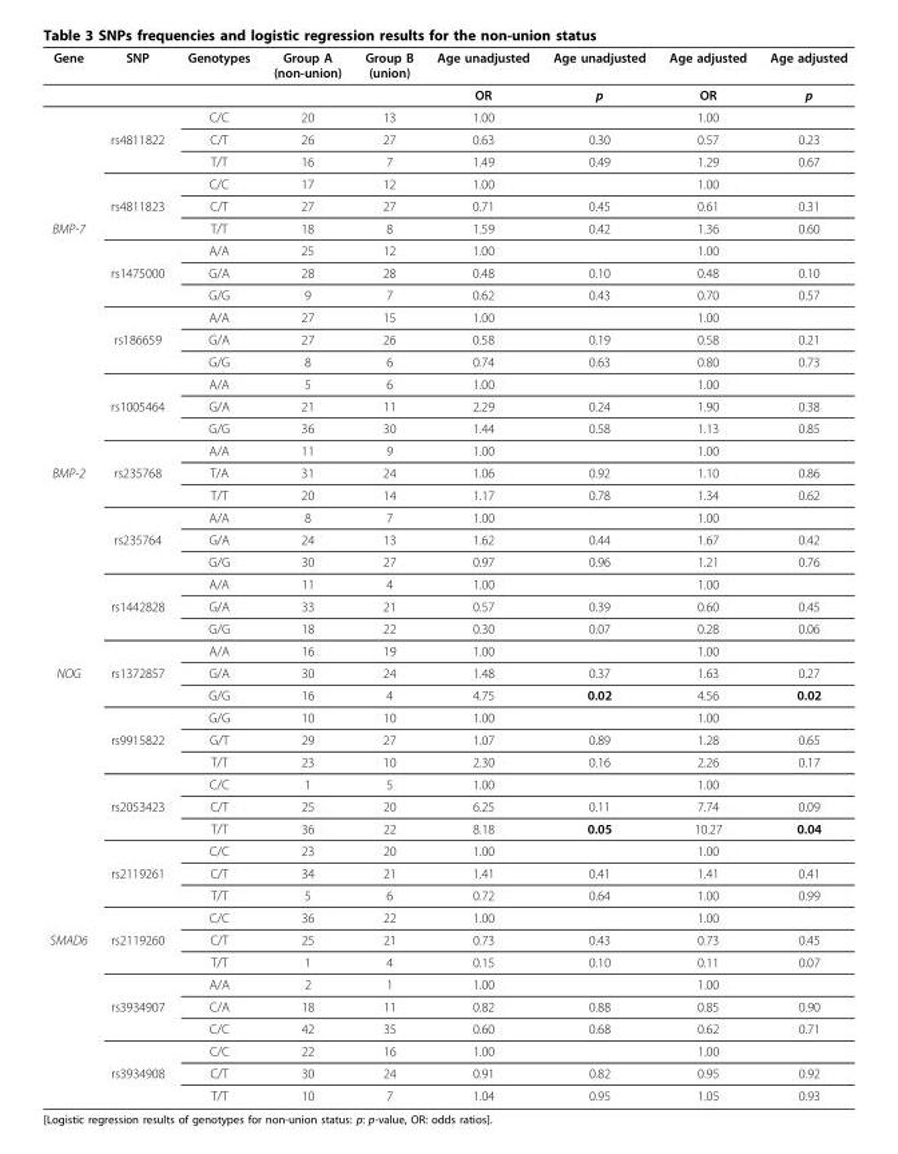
<table><thead><tr><td>Gene</td><td>SNP</td><td>Genotypes</td><td>Group A (non-union)</td><td>Group B (union)</td><td>Age unadjusted</td><td>Age unadjusted</td><td>Age adjusted</td><td>Age adjusted</td></tr></thead><tbody><tr><td></td><td></td><td></td><td></td><td></td><td>OR</td><td>p</td><td>OR</td><td>p</td></tr><tr><td></td><td></td><td>C/C</td><td>20</td><td>13</td><td>1.00</td><td></td><td>1.00</td><td></td></tr><tr><td></td><td>rs4811822</td><td>C/T</td><td>26</td><td>27</td><td>0.63</td><td>0.30</td><td>0.57</td><td>0.23</td></tr><tr><td></td><td></td><td>T/T</td><td>16</td><td>7</td><td>1.49</td><td>0.49</td><td>1.29</td><td>0.67</td></tr><tr><td></td><td></td><td>C/C</td><td>17</td><td>12</td><td>1.00</td><td></td><td>1.00</td><td></td></tr><tr><td></td><td>rs4811823</td><td>C/T</td><td>27</td><td>27</td><td>0.71</td><td>0.45</td><td>0.61</td><td>0.31</td></tr><tr><td rowspan="11">BMP-7</td><td></td><td>T/T</td><td>18</td><td>8</td><td>1.59</td><td>0.42</td><td>1.36</td><td>0.60</td></tr><tr><td></td><td>A/A</td><td>25</td><td>12</td><td>1.00</td><td></td><td>1.00</td><td></td></tr><tr><td>rs1475000</td><td>G/A</td><td>28</td><td>28</td><td>0.48</td><td>0.10</td><td>0.48</td><td>0.10</td></tr><tr><td></td><td>G/G</td><td>9</td><td>7</td><td>0.62</td><td>0.43</td><td>0.70</td><td>0.57</td></tr><tr><td></td><td>A/A</td><td>27</td><td>15</td><td>1.00</td><td></td><td>1.00</td><td></td></tr><tr><td>rs186659</td><td>G/A</td><td>27</td><td>26</td><td>0.58</td><td>0.19</td><td>0.58</td><td>0.21</td></tr><tr><td></td><td>G/G</td><td>8</td><td>6</td><td>0.74</td><td>0.63</td><td>0.80</td><td>0.73</td></tr><tr><td></td><td>A/A</td><td>5</td><td>6</td><td>1.00</td><td></td><td>1.00</td><td></td></tr><tr><td>rs1005464</td><td>G/A</td><td>21</td><td>11</td><td>2.29</td><td>0.24</td><td>1.90</td><td>0.38</td></tr><tr><td></td><td>G/G</td><td>36</td><td>30</td><td>1.44</td><td>0.58</td><td>1.13</td><td>0.85</td></tr><tr><td></td><td>A/A</td><td>11</td><td>9</td><td>1.00</td><td></td><td>1.00</td><td></td></tr><tr><td rowspan="9">BMP-2</td><td>rs235768</td><td>T/A</td><td>31</td><td>24</td><td>1.06</td><td>0.92</td><td>1.10</td><td>0.86</td></tr><tr><td></td><td>T/T</td><td>20</td><td>14</td><td>1.17</td><td>0.78</td><td>1.34</td><td>0.62</td></tr><tr><td></td><td>A/A</td><td>8</td><td>7</td><td>1.00</td><td></td><td>1.00</td><td></td></tr><tr><td>rs235764</td><td>G/A</td><td>24</td><td>13</td><td>1.62</td><td>0.44</td><td>1.67</td><td>0.42</td></tr><tr><td></td><td>G/G</td><td>30</td><td>27</td><td>0.97</td><td>0.96</td><td>1.21</td><td>0.76</td></tr><tr><td></td><td>A/A</td><td>11</td><td>4</td><td>1.00</td><td></td><td>1.00</td><td></td></tr><tr><td>rs1442828</td><td>G/A</td><td>33</td><td>21</td><td>0.57</td><td>0.39</td><td>0.60</td><td>0.45</td></tr><tr><td></td><td>G/G</td><td>18</td><td>22</td><td>0.30</td><td>0.07</td><td>0.28</td><td>0.06</td></tr><tr><td></td><td>A/A</td><td>16</td><td>19</td><td>1.00</td><td></td><td>1.00</td><td></td></tr><tr><td rowspan="12">NOG</td><td>rs1372857</td><td>G/A</td><td>30</td><td>24</td><td>1.48</td><td>0.37</td><td>1.63</td><td>0.27</td></tr><tr><td></td><td>G/G</td><td>16</td><td>4</td><td>4.75</td><td>0.02</td><td>4.56</td><td>0.02</td></tr><tr><td></td><td>G/G</td><td>10</td><td>10</td><td>1.00</td><td></td><td>1.00</td><td></td></tr><tr><td>rs9915822</td><td>G/T</td><td>29</td><td>27</td><td>1.07</td><td>0.89</td><td>1.28</td><td>0.65</td></tr><tr><td></td><td>T/T</td><td>23</td><td>10</td><td>2.30</td><td>0.16</td><td>2.26</td><td>0.17</td></tr><tr><td></td><td>C/C</td><td>1</td><td>5</td><td>1.00</td><td></td><td>1.00</td><td></td></tr><tr><td>rs2053423</td><td>C/T</td><td>25</td><td>20</td><td>6.25</td><td>0.11</td><td>7.74</td><td>0.09</td></tr><tr><td></td><td>T/T</td><td>36</td><td>22</td><td>8.18</td><td>0.05</td><td>10.27</td><td>0.04</td></tr><tr><td></td><td>C/C</td><td>23</td><td>20</td><td>1.00</td><td></td><td>1.00</td><td></td></tr><tr><td>rs2119261</td><td>C/T</td><td>34</td><td>21</td><td>1.41</td><td>0.41</td><td>1.41</td><td>0.41</td></tr><tr><td></td><td>T/T</td><td>5</td><td>6</td><td>0.72</td><td>0.64</td><td>1.00</td><td>0.99</td></tr><tr><td></td><td>C/C</td><td>36</td><td>22</td><td>1.00</td><td></td><td>1.00</td><td></td></tr><tr><td rowspan="8">SMAD6</td><td>rs2119260</td><td>C/T</td><td>25</td><td>21</td><td>0.73</td><td>0.43</td><td>0.73</td><td>0.45</td></tr><tr><td></td><td>T/T</td><td>1</td><td>4</td><td>0.15</td><td>0.10</td><td>0.11</td><td>0.07</td></tr><tr><td></td><td>A/A</td><td>2</td><td>1</td><td>1.00</td><td></td><td>1.00</td><td></td></tr><tr><td>rs3934907</td><td>C/A</td><td>18</td><td>11</td><td>0.82</td><td>0.88</td><td>0.85</td><td>0.90</td></tr><tr><td></td><td>C/C</td><td>42</td><td>35</td><td>0.60</td><td>0.68</td><td>0.62</td><td>0.71</td></tr><tr><td></td><td>C/C</td><td>22</td><td>16</td><td>1.00</td><td></td><td>1.00</td><td></td></tr><tr><td>rs3934908</td><td>C/T</td><td>30</td><td>24</td><td>0.91</td><td>0.82</td><td>0.95</td><td>0.92</td></tr><tr><td></td><td>T/T</td><td>10</td><td>7</td><td>1.04</td><td>0.95</td><td>1.05</td><td>0.93</td></tr></tbody></table>